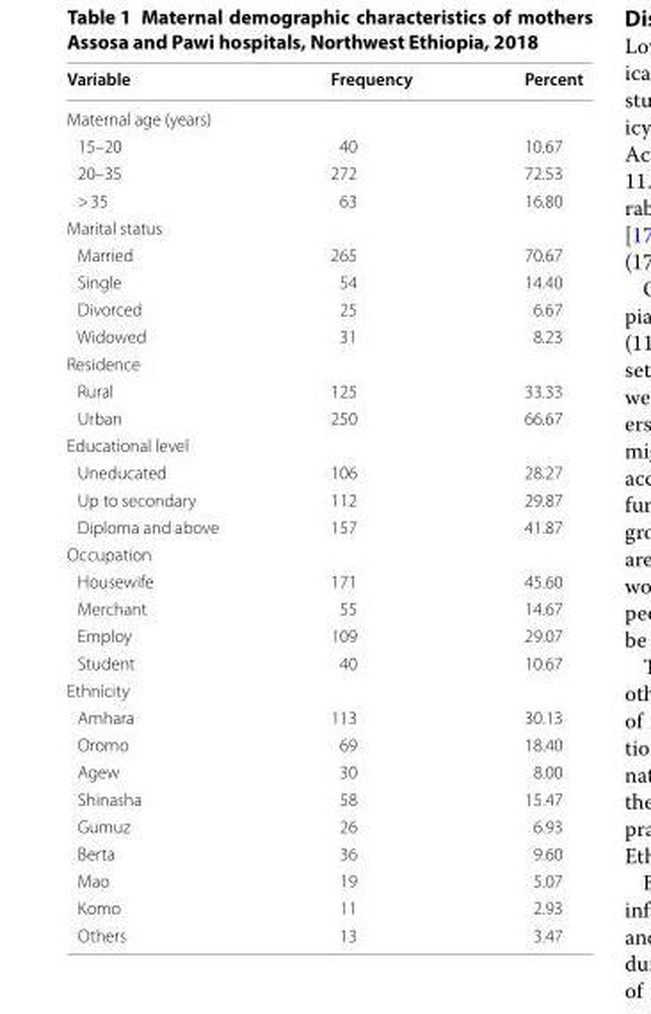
<table><thead><tr><td>Variable</td><td>Frequency</td><td>Percent</td></tr></thead><tbody><tr><td colspan="3">Maternal age (years)</td></tr><tr><td>15–20</td><td>40</td><td>10.67</td></tr><tr><td>20–35</td><td>272</td><td>72.53</td></tr><tr><td>&gt; 35</td><td>63</td><td>16.80</td></tr><tr><td colspan="3">Marital status</td></tr><tr><td>Married</td><td>265</td><td>70.67</td></tr><tr><td>Single</td><td>54</td><td>14.40</td></tr><tr><td>Divorced</td><td>25</td><td>6.67</td></tr><tr><td>Widowed</td><td>31</td><td>8.23</td></tr><tr><td colspan="3">Residence</td></tr><tr><td>Rural</td><td>125</td><td>33.33</td></tr><tr><td>Urban</td><td>250</td><td>66.67</td></tr><tr><td colspan="3">Educational level</td></tr><tr><td>Uneducated</td><td>106</td><td>28.27</td></tr><tr><td>Up to secondary</td><td>112</td><td>29.87</td></tr><tr><td>Diploma and above</td><td>157</td><td>41.87</td></tr><tr><td colspan="3">Occupation</td></tr><tr><td>Housewife</td><td>171</td><td>45.60</td></tr><tr><td>Merchant</td><td>55</td><td>14.67</td></tr><tr><td>Employ</td><td>109</td><td>29.07</td></tr><tr><td>Student</td><td>40</td><td>10.67</td></tr><tr><td colspan="3">Ethnicity</td></tr><tr><td>Amhara</td><td>113</td><td>30.13</td></tr><tr><td>Oromo</td><td>69</td><td>18.40</td></tr><tr><td>Agew</td><td>30</td><td>8.00</td></tr><tr><td>Shinasha</td><td>58</td><td>15.47</td></tr><tr><td>Gumuz</td><td>26</td><td>6.93</td></tr><tr><td>Berta</td><td>36</td><td>9.60</td></tr><tr><td>Mao</td><td>19</td><td>5.07</td></tr><tr><td>Komo</td><td>11</td><td>2.93</td></tr><tr><td>Others</td><td>13</td><td>3.47</td></tr></tbody></table>